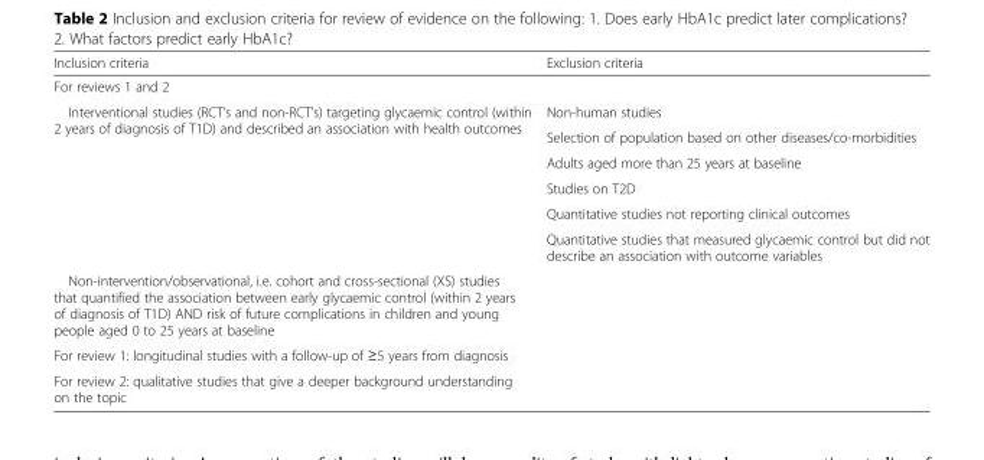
<table><thead><tr><td>Inclusion criteria</td><td>Exclusion criteria</td></tr></thead><tbody><tr><td colspan="2">For reviews 1 and 2</td></tr><tr><td rowspan="6">Interventional studies (RCT’s and non-RCT’s) targeting glycaemic control (within 2 years of diagnosis of T1D) and described an association with health outcomes</td><td>Non-human studies</td></tr><tr><td>Selection of population based on other diseases/co-morbidities</td></tr><tr><td>Adults aged more than 25 years at baseline</td></tr><tr><td>Studies on T2D</td></tr><tr><td>Quantitative studies not reporting clinical outcomes</td></tr><tr><td>Quantitative studies that measured glycaemic control but did not describe an association with outcome variables</td></tr><tr><td colspan="2">Non-intervention/observational, i.e. cohort and cross-sectional (XS) studies that quantified the association between early glycaemic control (within 2 years of diagnosis of T1D) AND risk of future complications in children and young people aged 0 to 25 years at baseline</td></tr><tr><td colspan="2">For review 1: longitudinal studies with a follow-up of ≥5 years from diagnosis</td></tr><tr><td>For review 2: qualitative studies that give a deeper background understanding on the topic</td><td></td></tr></tbody></table>